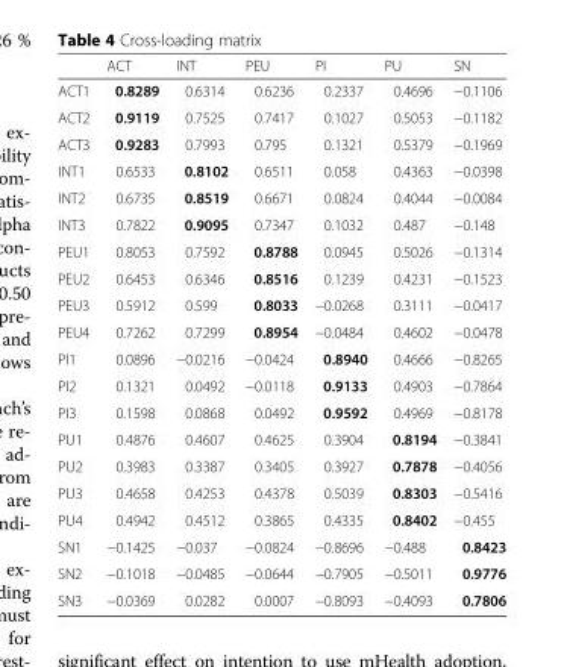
<table><thead><tr><td></td><td>ACT</td><td>INT</td><td>PEU</td><td>PI</td><td>PU</td><td>SN</td></tr></thead><tbody><tr><td>ACT1</td><td>0.8289</td><td>0.6314</td><td>0.6236</td><td>0.2337</td><td>0.4696</td><td>−0.1106</td></tr><tr><td>ACT2</td><td>0.9119</td><td>0.7525</td><td>0.7417</td><td>0.1027</td><td>0.5053</td><td>−0.1182</td></tr><tr><td>ACT3</td><td>0.9283</td><td>0.7993</td><td>0.795</td><td>0.1321</td><td>0.5379</td><td>−0.1969</td></tr><tr><td>INT1</td><td>0.6533</td><td>0.8102</td><td>0.6511</td><td>0.058</td><td>0.4363</td><td>−0.0398</td></tr><tr><td>INT2</td><td>0.6735</td><td>0.8519</td><td>0.6671</td><td>0.0824</td><td>0.4044</td><td>−0.0084</td></tr><tr><td>INT3</td><td>0.7822</td><td>0.9095</td><td>0.7347</td><td>0.1032</td><td>0.487</td><td>−0.148</td></tr><tr><td>PEU1</td><td>0.8053</td><td>0.7592</td><td>0.8788</td><td>0.0945</td><td>0.5026</td><td>−0.1314</td></tr><tr><td>PEU2</td><td>0.6453</td><td>0.6346</td><td>0.8516</td><td>0.1239</td><td>0.4231</td><td>−0.1523</td></tr><tr><td>PEU3</td><td>0.5912</td><td>0.599</td><td>0.8033</td><td>−0.0268</td><td>0.3111</td><td>−0.0417</td></tr><tr><td>PEU4</td><td>0.7262</td><td>0.7299</td><td>0.8954</td><td>−0.0484</td><td>0.4602</td><td>−0.0478</td></tr><tr><td>PI1</td><td>0.0896</td><td>−0.0216</td><td>−0.0424</td><td>0.8940</td><td>0.4666</td><td>−0.8265</td></tr><tr><td>PI2</td><td>0.1321</td><td>0.0492</td><td>−0.0118</td><td>0.9133</td><td>0.4903</td><td>−0.7864</td></tr><tr><td>PI3</td><td>0.1598</td><td>0.0868</td><td>0.0492</td><td>0.9592</td><td>0.4969</td><td>−0.8178</td></tr><tr><td>PU1</td><td>0.4876</td><td>0.4607</td><td>0.4625</td><td>0.3904</td><td>0.8194</td><td>−0.3841</td></tr><tr><td>PU2</td><td>0.3983</td><td>0.3387</td><td>0.3405</td><td>0.3927</td><td>0.7878</td><td>−0.4056</td></tr><tr><td>PU3</td><td>0.4658</td><td>0.4253</td><td>0.4378</td><td>0.5039</td><td>0.8303</td><td>−0.5416</td></tr><tr><td>PU4</td><td>0.4942</td><td>0.4512</td><td>0.3865</td><td>0.4335</td><td>0.8402</td><td>−0.455</td></tr><tr><td>SN1</td><td>−0.1425</td><td>−0.037</td><td>−0.0824</td><td>−0.8696</td><td>−0.488</td><td>0.8423</td></tr><tr><td>SN2</td><td>−0.1018</td><td>−0.0485</td><td>−0.0644</td><td>−0.7905</td><td>−0.5011</td><td>0.9776</td></tr><tr><td>SN3</td><td>−0.0369</td><td>0.0282</td><td>0.0007</td><td>−0.8093</td><td>−0.4093</td><td>0.7806</td></tr></tbody></table>